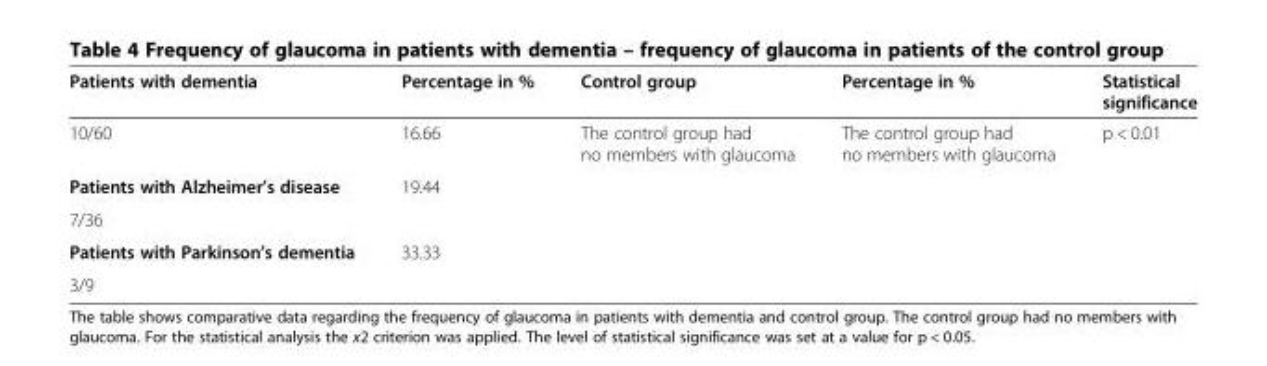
<table><thead><tr><td>Patients with dementia</td><td>Percentage in %</td><td>Control group</td><td>Percentage in %</td><td>Statistical significance</td></tr></thead><tbody><tr><td>10/60</td><td>16.66</td><td>The control group had no members with glaucoma</td><td>The control group had no members with glaucoma</td><td>p &lt; 0.01</td></tr><tr><td>Patients with Alzheimer’s disease</td><td rowspan="2">19.44</td><td rowspan="2"></td><td rowspan="2"></td><td rowspan="2"></td></tr><tr><td>7/36</td></tr><tr><td>Patients with Parkinson’s dementia</td><td rowspan="2">33.33</td><td rowspan="2"></td><td rowspan="2"></td><td rowspan="2"></td></tr><tr><td>3/9</td></tr></tbody></table>